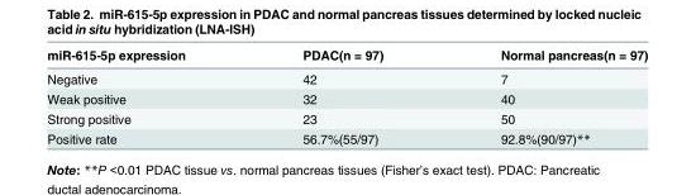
<table><thead><tr><td>miR-615-5p expression</td><td>PDAC(n = 97)</td><td>Normal pancreas(n = 97)</td></tr></thead><tbody><tr><td>Negative</td><td>42</td><td>7</td></tr><tr><td>Weak positive</td><td>32</td><td>40</td></tr><tr><td>Strong positive</td><td>23</td><td>50</td></tr><tr><td>Positive rate</td><td>56.7%(55/97)</td><td>92.8%(90/97)**</td></tr></tbody></table>